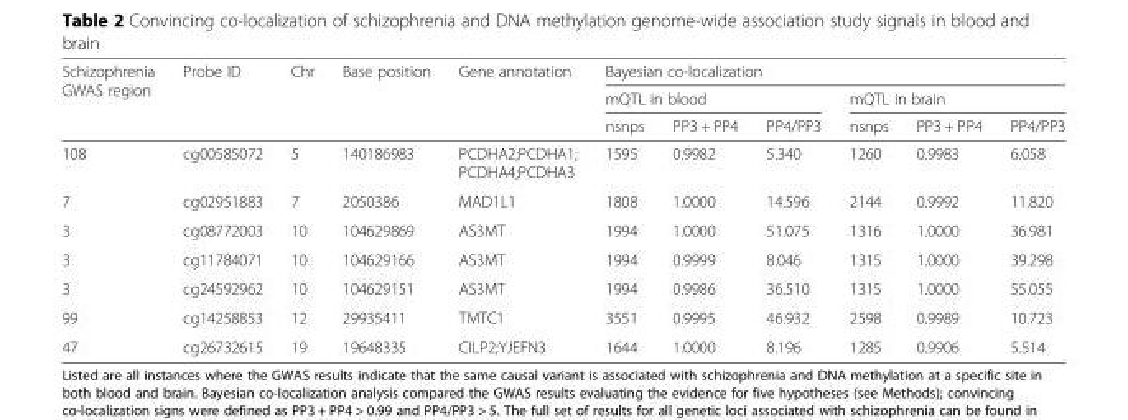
<table><thead><tr><td rowspan="3">Schizophrenia GWAS region</td><td rowspan="3">Probe ID</td><td rowspan="3">Chr</td><td rowspan="3">Base position</td><td rowspan="3">Gene annotation</td><td colspan="6">Bayesian co-localization</td></tr><tr><td colspan="3">mQTL in blood</td><td colspan="3">mQTL in brain</td></tr><tr><td>nsnps</td><td>PP3 + PP4</td><td>PP4/PP3</td><td>nsnps</td><td>PP3 + PP4</td><td>PP4/PP3</td></tr></thead><tbody><tr><td>108</td><td>cg00585072</td><td>5</td><td>140186983</td><td>PCDHA2;PCDHA1; PCDHA4;PCDHA3</td><td>1595</td><td>0.9982</td><td>5.340</td><td>1260</td><td>0.9983</td><td>6.058</td></tr><tr><td>7</td><td>cg02951883</td><td>7</td><td>2050386</td><td>MAD1L1</td><td>1808</td><td>1.0000</td><td>14.596</td><td>2144</td><td>0.9992</td><td>11.820</td></tr><tr><td>3</td><td>cg08772003</td><td>10</td><td>104629869</td><td>AS3MT</td><td>1994</td><td>1.0000</td><td>51.075</td><td>1316</td><td>1.0000</td><td>36.981</td></tr><tr><td>3</td><td>cg11784071</td><td>10</td><td>104629166</td><td>AS3MT</td><td>1994</td><td>0.9999</td><td>8.046</td><td>1315</td><td>1.0000</td><td>39.298</td></tr><tr><td>3</td><td>cg24592962</td><td>10</td><td>104629151</td><td>AS3MT</td><td>1994</td><td>0.9986</td><td>36.510</td><td>1315</td><td>1.0000</td><td>55.055</td></tr><tr><td>99</td><td>cg14258853</td><td>12</td><td>29935411</td><td>TMTC1</td><td>3551</td><td>0.9995</td><td>46.932</td><td>2598</td><td>0.9989</td><td>10.723</td></tr><tr><td>47</td><td>cg26732615</td><td>19</td><td>19648335</td><td>CILP2;YJEFN3</td><td>1644</td><td>1.0000</td><td>8.196</td><td>1285</td><td>0.9906</td><td>5.514</td></tr></tbody></table>